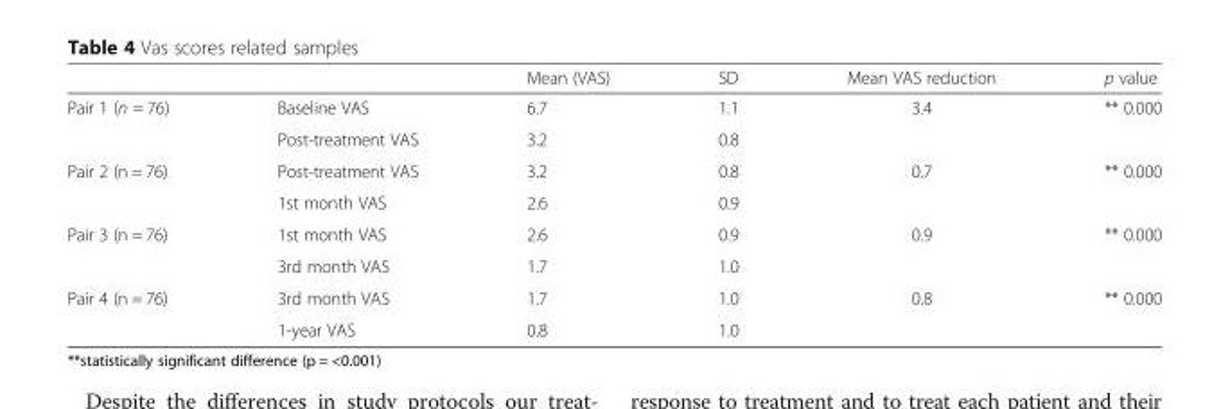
<table><thead><tr><td></td><td></td><td>Mean (VAS)</td><td>SD</td><td>Mean VAS reduction</td><td>p value</td></tr></thead><tbody><tr><td rowspan="2">Pair 1 (n = 76)</td><td>Baseline VAS</td><td>6.7</td><td>1.1</td><td rowspan="2">3.4</td><td>** 0.000</td></tr><tr><td>Post-treatment VAS</td><td>3.2</td><td>0.8</td><td></td></tr><tr><td rowspan="2">Pair 2 (n = 76)</td><td>Post-treatment VAS</td><td>3.2</td><td>0.8</td><td rowspan="2">0.7</td><td>** 0.000</td></tr><tr><td>1st month VAS</td><td>2.6</td><td>0.9</td><td></td></tr><tr><td rowspan="2">Pair 3 (n = 76)</td><td>1st month VAS</td><td>2.6</td><td>0.9</td><td rowspan="2">0.9</td><td>** 0.000</td></tr><tr><td>3rd month VAS</td><td>1.7</td><td>1.0</td><td></td></tr><tr><td rowspan="2">Pair 4 (n = 76)</td><td>3rd month VAS</td><td>1.7</td><td>1.0</td><td rowspan="2">0.8</td><td>** 0.000</td></tr><tr><td>1-year VAS</td><td>0.8</td><td>1.0</td><td></td></tr></tbody></table>